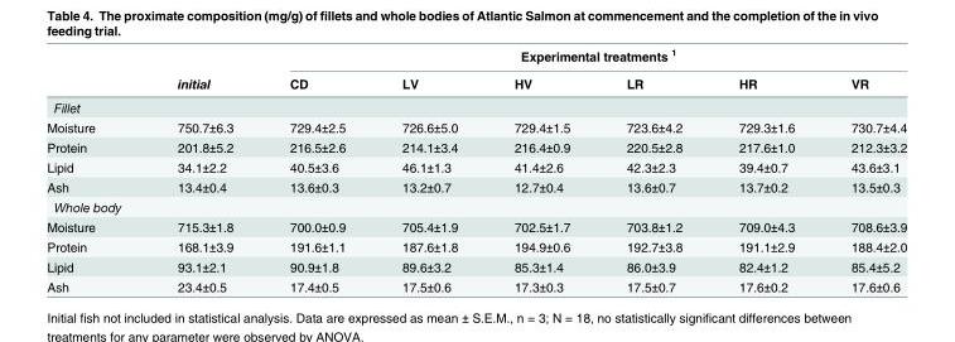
<table><thead><tr><td rowspan="2"></td><td rowspan="2">initial</td><td colspan="6">Experimental treatments <sup>1</sup></td></tr><tr><td>CD</td><td>LV</td><td>HV</td><td>LR</td><td>HR</td><td>VR</td></tr></thead><tbody><tr><td colspan="8">Fillet</td></tr><tr><td>Moisture</td><td>750.7±6.3</td><td>729.4±2.5</td><td>726.6±5.0</td><td>729.4±1.5</td><td>723.6±4.2</td><td>729.3±1.6</td><td>730.7±4.4</td></tr><tr><td>Protein</td><td>201.8±5.2</td><td>216.5±2.6</td><td>214.1±3.4</td><td>216.4±0.9</td><td>220.5±2.8</td><td>217.6±1.0</td><td>212.3±3.2</td></tr><tr><td>Lipid</td><td>34.1±2.2</td><td>40.5±3.6</td><td>46.1±1.3</td><td>41.4±2.6</td><td>42.3±2.3</td><td>39.4±0.7</td><td>43.6±3.1</td></tr><tr><td>Ash</td><td>13.4±0.4</td><td>13.6±0.3</td><td>13.2±0.7</td><td>12.7±0.4</td><td>13.6±0.7</td><td>13.7±0.2</td><td>13.5±0.3</td></tr><tr><td colspan="8">Whole body</td></tr><tr><td>Moisture</td><td>715.3±1.8</td><td>700.0±0.9</td><td>705.4±1.9</td><td>702.5±1.7</td><td>703.8±1.2</td><td>709.0±4.3</td><td>708.6±3.9</td></tr><tr><td>Protein</td><td>168.1±3.9</td><td>191.6±1.1</td><td>187.6±1.8</td><td>194.9±0.6</td><td>192.7±3.8</td><td>191.1±2.9</td><td>188.4±2.0</td></tr><tr><td>Lipid</td><td>93.1±2.1</td><td>90.9±1.8</td><td>89.6±3.2</td><td>85.3±1.4</td><td>86.0±3.9</td><td>82.4±1.2</td><td>85.4±5.2</td></tr><tr><td>Ash</td><td>23.4±0.5</td><td>17.4±0.5</td><td>17.5±0.6</td><td>17.3±0.3</td><td>17.5±0.7</td><td>17.6±0.2</td><td>17.6±0.6</td></tr></tbody></table>